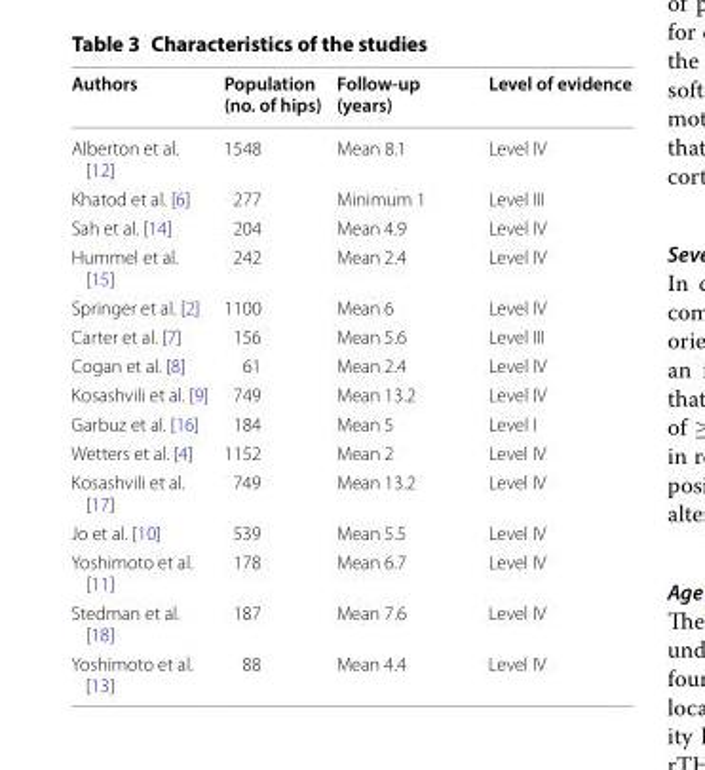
<table><thead><tr><td>Authors</td><td>Population (no. of hips)</td><td>Follow‑up (years)</td><td>Level of evidence</td></tr></thead><tbody><tr><td>Alberton et al. [12]</td><td>1548</td><td>Mean 8.1</td><td>Level IV</td></tr><tr><td>Khatod et al. [6]</td><td>277</td><td>Minimum 1</td><td>Level III</td></tr><tr><td>Sah et al. [14]</td><td>204</td><td>Mean 4.9</td><td>Level IV</td></tr><tr><td>Hummel et al. [15]</td><td>242</td><td>Mean 2.4</td><td>Level IV</td></tr><tr><td>Springer et al. [2]</td><td>1100</td><td>Mean 6</td><td>Level IV</td></tr><tr><td>Carter et al. [7]</td><td>156</td><td>Mean 5.6</td><td>Level III</td></tr><tr><td>Cogan et al. [8]</td><td>61</td><td>Mean 2.4</td><td>Level IV</td></tr><tr><td>Kosashvili et al. [9]</td><td>749</td><td>Mean 13.2</td><td>Level IV</td></tr><tr><td>Garbuz et al. [16]</td><td>184</td><td>Mean 5</td><td>Level I</td></tr><tr><td>Wetters et al. [4]</td><td>1152</td><td>Mean 2</td><td>Level IV</td></tr><tr><td>Kosashvili et al. [17]</td><td>749</td><td>Mean 13.2</td><td>Level IV</td></tr><tr><td>Jo et al. [10]</td><td>539</td><td>Mean 5.5</td><td>Level IV</td></tr><tr><td>Yoshimoto et al. [11]</td><td>178</td><td>Mean 6.7</td><td>Level IV</td></tr><tr><td>Stedman et al. [18]</td><td>187</td><td>Mean 7.6</td><td>Level IV</td></tr><tr><td>Yoshimoto et al. [13]</td><td>88</td><td>Mean 4.4</td><td>Level IV</td></tr></tbody></table>